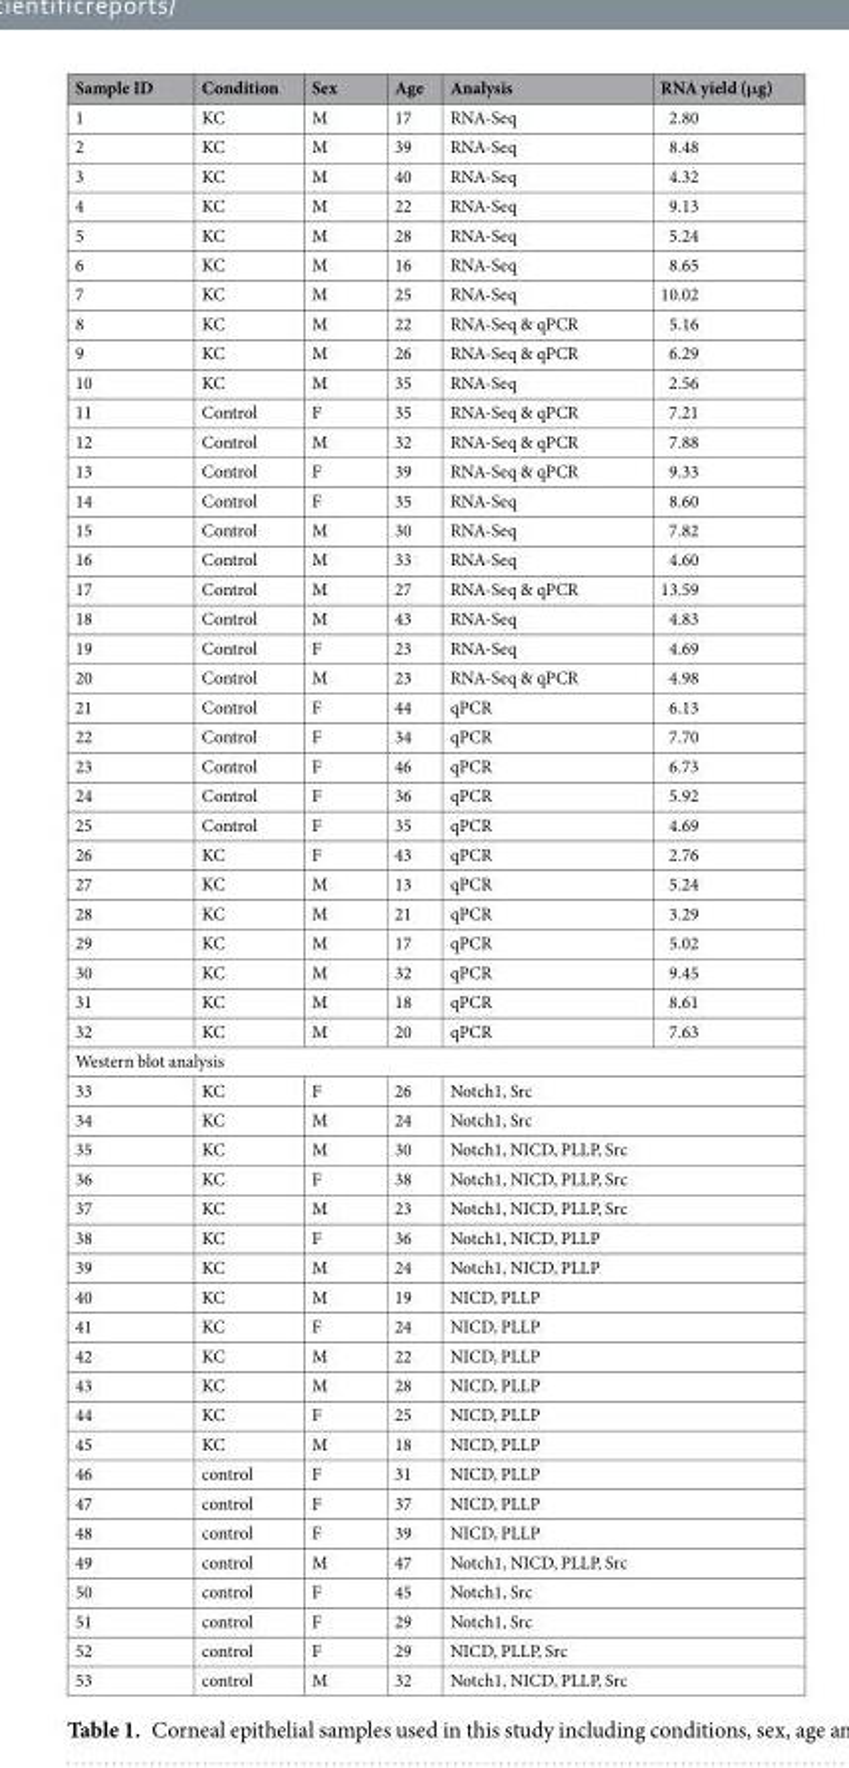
<table><thead><tr><td>Sample ID</td><td>Condition</td><td>Sex</td><td>Age</td><td>Analysis</td><td>RNA yield (μg)</td></tr></thead><tbody><tr><td>1</td><td>KC</td><td>M</td><td>17</td><td>RNA-Seq</td><td>2.80</td></tr><tr><td>2</td><td>KC</td><td>M</td><td>39</td><td>RNA-Seq</td><td>8.48</td></tr><tr><td>3</td><td>KC</td><td>M</td><td>40</td><td>RNA-Seq</td><td>4.32</td></tr><tr><td>4</td><td>KC</td><td>M</td><td>22</td><td>RNA-Seq</td><td>9.13</td></tr><tr><td>5</td><td>KC</td><td>M</td><td>28</td><td>RNA-Seq</td><td>5.24</td></tr><tr><td>6</td><td>KC</td><td>M</td><td>16</td><td>RNA-Seq</td><td>8.65</td></tr><tr><td>7</td><td>KC</td><td>M</td><td>25</td><td>RNA-Seq</td><td>10.02</td></tr><tr><td>8</td><td>KC</td><td>M</td><td>22</td><td>RNA-Seq &amp; qPCR</td><td>5.16</td></tr><tr><td>9</td><td>KC</td><td>M</td><td>26</td><td>RNA-Seq &amp; qPCR</td><td>6.29</td></tr><tr><td>10</td><td>KC</td><td>M</td><td>35</td><td>RNA-Seq</td><td>2.56</td></tr><tr><td>11</td><td>Control</td><td>F</td><td>35</td><td>RNA-Seq &amp; qPCR</td><td>7.21</td></tr><tr><td>12</td><td>Control</td><td>M</td><td>32</td><td>RNA-Seq &amp; qPCR</td><td>7.88</td></tr><tr><td>13</td><td>Control</td><td>F</td><td>39</td><td>RNA-Seq &amp; qPCR</td><td>9.33</td></tr><tr><td>14</td><td>Control</td><td>F</td><td>35</td><td>RNA-Seq</td><td>8.60</td></tr><tr><td>15</td><td>Control</td><td>M</td><td>30</td><td>RNA-Seq</td><td>7.82</td></tr><tr><td>16</td><td>Control</td><td>M</td><td>33</td><td>RNA-Seq</td><td>4.60</td></tr><tr><td>17</td><td>Control</td><td>M</td><td>27</td><td>RNA-Seq &amp; qPCR</td><td>13.59</td></tr><tr><td>18</td><td>Control</td><td>M</td><td>43</td><td>RNA-Seq</td><td>4.83</td></tr><tr><td>19</td><td>Control</td><td>F</td><td>23</td><td>RNA-Seq</td><td>4.69</td></tr><tr><td>20</td><td>Control</td><td>M</td><td>23</td><td>RNA-Seq &amp; qPCR</td><td>4.98</td></tr><tr><td>21</td><td>Control</td><td>F</td><td>44</td><td>qPCR</td><td>6.13</td></tr><tr><td>22</td><td>Control</td><td>F</td><td>34</td><td>qPCR</td><td>7.70</td></tr><tr><td>23</td><td>Control</td><td>F</td><td>46</td><td>qPCR</td><td>6.73</td></tr><tr><td>24</td><td>Control</td><td>F</td><td>36</td><td>qPCR</td><td>5.92</td></tr><tr><td>25</td><td>Control</td><td>F</td><td>35</td><td>qPCR</td><td>4.69</td></tr><tr><td>26</td><td>KC</td><td>F</td><td>43</td><td>qPCR</td><td>2.76</td></tr><tr><td>27</td><td>KC</td><td>M</td><td>13</td><td>qPCR</td><td>5.24</td></tr><tr><td>28</td><td>KC</td><td>M</td><td>21</td><td>qPCR</td><td>3.29</td></tr><tr><td>29</td><td>KC</td><td>M</td><td>17</td><td>qPCR</td><td>5.02</td></tr><tr><td>30</td><td>KC</td><td>M</td><td>32</td><td>qPCR</td><td>9.45</td></tr><tr><td>31</td><td>KC</td><td>M</td><td>18</td><td>qPCR</td><td>8.61</td></tr><tr><td>32</td><td>KC</td><td>M</td><td>20</td><td>qPCR</td><td>7.63</td></tr><tr><td colspan="6">Western blot analysis</td></tr><tr><td>33</td><td>KC</td><td>F</td><td>26</td><td colspan="2">Notch1, Src</td></tr><tr><td>34</td><td>KC</td><td>M</td><td>24</td><td colspan="2">Notch1, Src</td></tr><tr><td>35</td><td>KC</td><td>M</td><td>30</td><td colspan="2">Notch1, NICD, PLLP, Src</td></tr><tr><td>36</td><td>KC</td><td>F</td><td>38</td><td colspan="2">Notch1, NICD, PLLP, Src</td></tr><tr><td>37</td><td>KC</td><td>M</td><td>23</td><td colspan="2">Notch1, NICD, PLLP, Src</td></tr><tr><td>38</td><td>KC</td><td>F</td><td>36</td><td colspan="2">Notch1, NICD, PLLP</td></tr><tr><td>39</td><td>KC</td><td>M</td><td>24</td><td colspan="2">Notch1, NICD, PLLP</td></tr><tr><td>40</td><td>KC</td><td>M</td><td>19</td><td colspan="2">NICD, PLLP</td></tr><tr><td>41</td><td>KC</td><td>F</td><td>24</td><td colspan="2">NICD, PLLP</td></tr><tr><td>42</td><td>KC</td><td>M</td><td>22</td><td colspan="2">NICD, PLLP</td></tr><tr><td>43</td><td>KC</td><td>M</td><td>28</td><td colspan="2">NICD, PLLP</td></tr><tr><td>44</td><td>KC</td><td>F</td><td>25</td><td colspan="2">NICD, PLLP</td></tr><tr><td>45</td><td>KC</td><td>M</td><td>18</td><td colspan="2">NICD, PLLP</td></tr><tr><td>46</td><td>control</td><td>F</td><td>31</td><td colspan="2">NICD, PLLP</td></tr><tr><td>47</td><td>control</td><td>F</td><td>37</td><td colspan="2">NICD, PLLP</td></tr><tr><td>48</td><td>control</td><td>F</td><td>39</td><td colspan="2">NICD, PLLP</td></tr><tr><td>49</td><td>control</td><td>M</td><td>47</td><td colspan="2">Notch1, NICD, PLLP, Src</td></tr><tr><td>50</td><td>control</td><td>F</td><td>45</td><td colspan="2">Notch1, Src</td></tr><tr><td>51</td><td>control</td><td>F</td><td>29</td><td colspan="2">Notch1, Src</td></tr><tr><td>52</td><td>control</td><td>F</td><td>29</td><td colspan="2">NICD, PLLP, Src</td></tr><tr><td>53</td><td>control</td><td>M</td><td>32</td><td colspan="2">Notch1, NICD, PLLP, Src</td></tr></tbody></table>